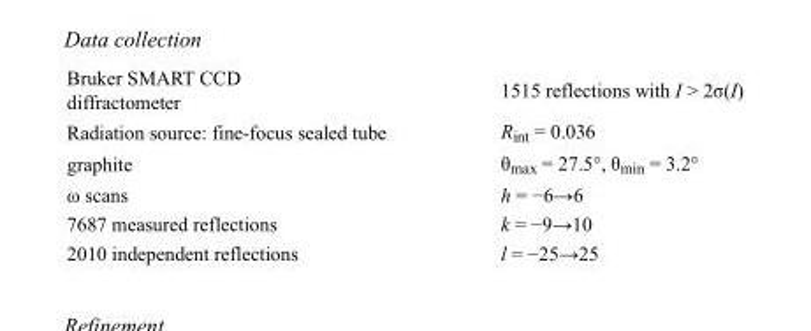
<table><tbody><tr><td>Bruker SMART CCD diffractometer</td><td>1515 reflections with I &gt; 2σ(I)</td></tr><tr><td>Radiation source: fine-focus sealed tube</td><td>R<sub>int</sub> = 0.036</td></tr><tr><td>graphite</td><td>θ<sub>max</sub> = 27.5°, θ<sub>min</sub> = 3.2°</td></tr><tr><td>ω scans</td><td>h = −6→6</td></tr><tr><td>7687 measured reflections</td><td>k = −9→10</td></tr><tr><td>2010 independent reflections</td><td>l = −25→25</td></tr></tbody></table>